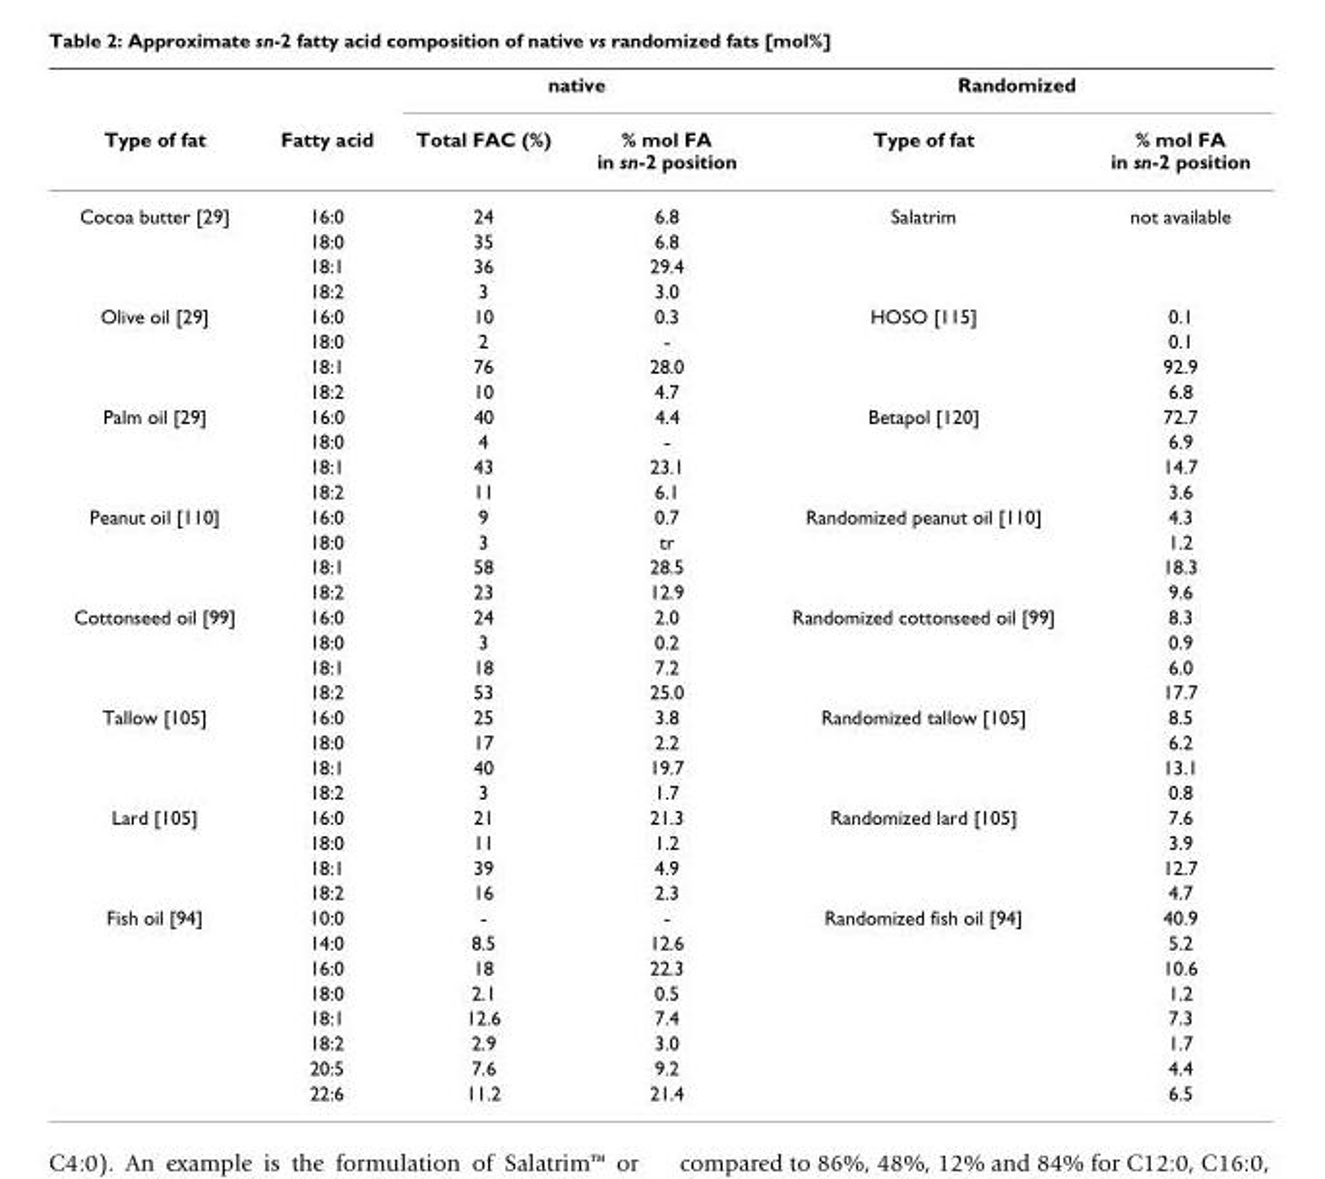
<table><thead><tr><td rowspan="2">Type of fat</td><td rowspan="2">Fatty acid</td><td colspan="2">native</td><td colspan="2">Randomized</td></tr><tr><td>Total FAC (%)</td><td>% mol FA in sn-2 position</td><td>Type of fat</td><td>% mol FA in sn-2 position</td></tr></thead><tbody><tr><td rowspan="4">Cocoa butter [29]</td><td>16:0</td><td>24</td><td>6.8</td><td>Salatrim</td><td>not available</td></tr><tr><td>18:0</td><td>35</td><td>6.8</td><td></td><td></td></tr><tr><td>18:1</td><td>36</td><td>29.4</td><td></td><td></td></tr><tr><td>18:2</td><td>3</td><td>3.0</td><td></td><td></td></tr><tr><td rowspan="4">Olive oil [29]</td><td>16:0</td><td>10</td><td>0.3</td><td>HOSO [115]</td><td>0.1</td></tr><tr><td>18:0</td><td>2</td><td>-</td><td></td><td>0.1</td></tr><tr><td>18:1</td><td>76</td><td>28.0</td><td></td><td>92.9</td></tr><tr><td>18:2</td><td>10</td><td>4.7</td><td></td><td>6.8</td></tr><tr><td rowspan="4">Palm oil [29]</td><td>16:0</td><td>40</td><td>4.4</td><td>Betapol [120]</td><td>72.7</td></tr><tr><td>18:0</td><td>4</td><td>-</td><td></td><td>6.9</td></tr><tr><td>18:1</td><td>43</td><td>23.1</td><td></td><td>14.7</td></tr><tr><td>18:2</td><td>11</td><td>6.1</td><td></td><td>3.6</td></tr><tr><td rowspan="4">Peanut oil [110]</td><td>16:0</td><td>9</td><td>0.7</td><td>Randomized peanut oil [110]</td><td>4.3</td></tr><tr><td>18:0</td><td>3</td><td>tr</td><td></td><td>1.2</td></tr><tr><td>18:1</td><td>58</td><td>28.5</td><td></td><td>18.3</td></tr><tr><td>18:2</td><td>23</td><td>12.9</td><td></td><td>9.6</td></tr><tr><td rowspan="4">Cottonseed oil [99]</td><td>16:0</td><td>24</td><td>2.0</td><td>Randomized cottonseed oil [99]</td><td>8.3</td></tr><tr><td>18:0</td><td>3</td><td>0.2</td><td></td><td>0.9</td></tr><tr><td>18:1</td><td>18</td><td>7.2</td><td></td><td>6.0</td></tr><tr><td>18:2</td><td>53</td><td>25.0</td><td></td><td>17.7</td></tr><tr><td rowspan="4">Tallow [105]</td><td>16:0</td><td>25</td><td>3.8</td><td>Randomized tallow [105]</td><td>8.5</td></tr><tr><td>18:0</td><td>17</td><td>2.2</td><td></td><td>6.2</td></tr><tr><td>18:1</td><td>40</td><td>19.7</td><td></td><td>13.1</td></tr><tr><td>18:2</td><td>3</td><td>1.7</td><td></td><td>0.8</td></tr><tr><td rowspan="4">Lard [105]</td><td>16:0</td><td>21</td><td>21.3</td><td>Randomized lard [105]</td><td>7.6</td></tr><tr><td>18:0</td><td>11</td><td>1.2</td><td></td><td>3.9</td></tr><tr><td>18:1</td><td>39</td><td>4.9</td><td></td><td>12.7</td></tr><tr><td>18:2</td><td>16</td><td>2.3</td><td></td><td>4.7</td></tr><tr><td rowspan="8">Fish oil [94]</td><td>10:0</td><td>-</td><td>-</td><td>Randomized fish oil [94]</td><td>40.9</td></tr><tr><td>14:0</td><td>8.5</td><td>12.6</td><td></td><td>5.2</td></tr><tr><td>16:0</td><td>18</td><td>22.3</td><td></td><td>10.6</td></tr><tr><td>18:0</td><td>2.1</td><td>0.5</td><td></td><td>1.2</td></tr><tr><td>18:1</td><td>12.6</td><td>7.4</td><td></td><td>7.3</td></tr><tr><td>18:2</td><td>2.9</td><td>3.0</td><td></td><td>1.7</td></tr><tr><td>20:5</td><td>7.6</td><td>9.2</td><td></td><td>4.4</td></tr><tr><td>22:6</td><td>11.2</td><td>21.4</td><td></td><td>6.5</td></tr></tbody></table>